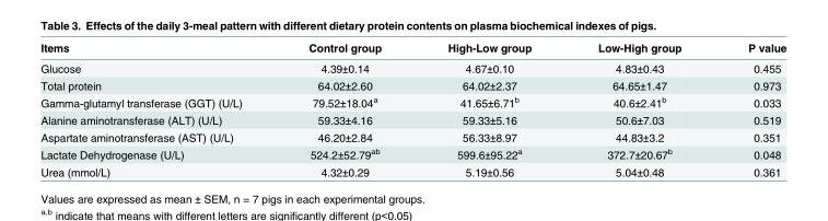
<table><thead><tr><td>Items</td><td>Control group</td><td>High-Low group</td><td>Low-High group</td><td>P value</td></tr></thead><tbody><tr><td>Glucose</td><td>4.39±0.14</td><td>4.67±0.10</td><td>4.83±0.43</td><td>0.455</td></tr><tr><td>Total protein</td><td>64.02±2.60</td><td>64.02±2.37</td><td>64.65±1.47</td><td>0.973</td></tr><tr><td>Gamma-glutamyl transferase (GGT) (U/L)</td><td>79.52±18.04<sup>a</sup></td><td>41.65±6.71<sup>b</sup></td><td>40.6±2.41<sup>b</sup></td><td>0.033</td></tr><tr><td>Alanine aminotransferase (ALT) (U/L)</td><td>59.33±4.16</td><td>59.33±5.16</td><td>50.6±7.03</td><td>0.519</td></tr><tr><td>Aspartate aminotransferase (AST) (U/L)</td><td>46.20±2.84</td><td>56.33±8.97</td><td>44.83±3.2</td><td>0.351</td></tr><tr><td>Lactate Dehydrogenase (U/L)</td><td>524.2±52.79<sup>ab</sup></td><td>599.6±95.22<sup>a</sup></td><td>372.7±20.67<sup>b</sup></td><td>0.048</td></tr><tr><td>Urea (mmol/L)</td><td>4.32±0.29</td><td>5.19±0.56</td><td>5.04±0.48</td><td>0.361</td></tr></tbody></table>